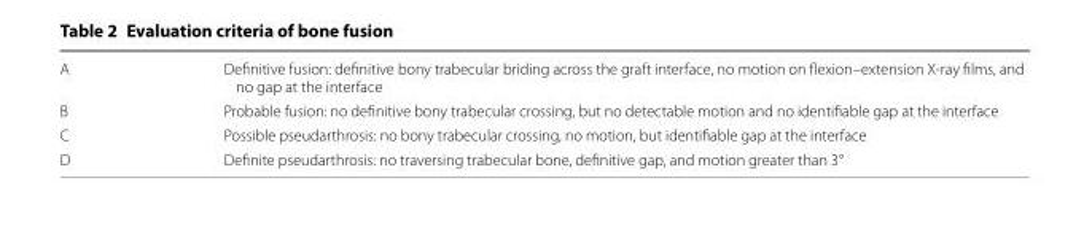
<table><tbody><tr><td>A</td><td>Definitive fusion: definitive bony trabecular briding across the graft interface, no motion on flexion–extension X-ray films, and no gap at the interface</td></tr><tr><td>B</td><td>Probable fusion: no definitive bony trabecular crossing, but no detectable motion and no identifiable gap at the interface</td></tr><tr><td>C</td><td>Possible pseudarthrosis: no bony trabecular crossing, no motion, but identifiable gap at the interface</td></tr><tr><td>D</td><td>Definite pseudarthrosis: no traversing trabecular bone, definitive gap, and motion greater than 3°</td></tr></tbody></table>